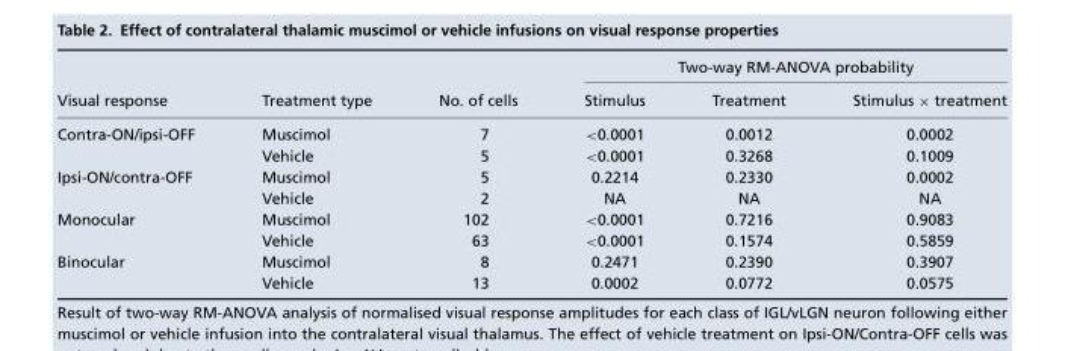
<table><thead><tr><td rowspan="2">Visual response</td><td rowspan="2">Treatment type</td><td rowspan="2">No. of cells</td><td colspan="3">Two-way RM-ANOVA probability</td></tr><tr><td>Stimulus</td><td>Treatment</td><td>Stimulus × treatment</td></tr></thead><tbody><tr><td rowspan="2">Contra-ON/ipsi-OFF</td><td>Muscimol</td><td>7</td><td>&lt;0.0001</td><td>0.0012</td><td>0.0002</td></tr><tr><td>Vehicle</td><td>5</td><td>&lt;0.0001</td><td>0.3268</td><td>0.1009</td></tr><tr><td rowspan="2">Ipsi-ON/contra-OFF</td><td>Muscimol</td><td>5</td><td>0.2214</td><td>0.2330</td><td>0.0002</td></tr><tr><td>Vehicle</td><td>2</td><td>NA</td><td>NA</td><td>NA</td></tr><tr><td rowspan="2">Monocular</td><td>Muscimol</td><td>102</td><td>&lt;0.0001</td><td>0.7216</td><td>0.9083</td></tr><tr><td>Vehicle</td><td>63</td><td>&lt;0.0001</td><td>0.1574</td><td>0.5859</td></tr><tr><td rowspan="2">Binocular</td><td>Muscimol</td><td>8</td><td>0.2471</td><td>0.2390</td><td>0.3907</td></tr><tr><td>Vehicle</td><td>13</td><td>0.0002</td><td>0.0772</td><td>0.0575</td></tr></tbody></table>